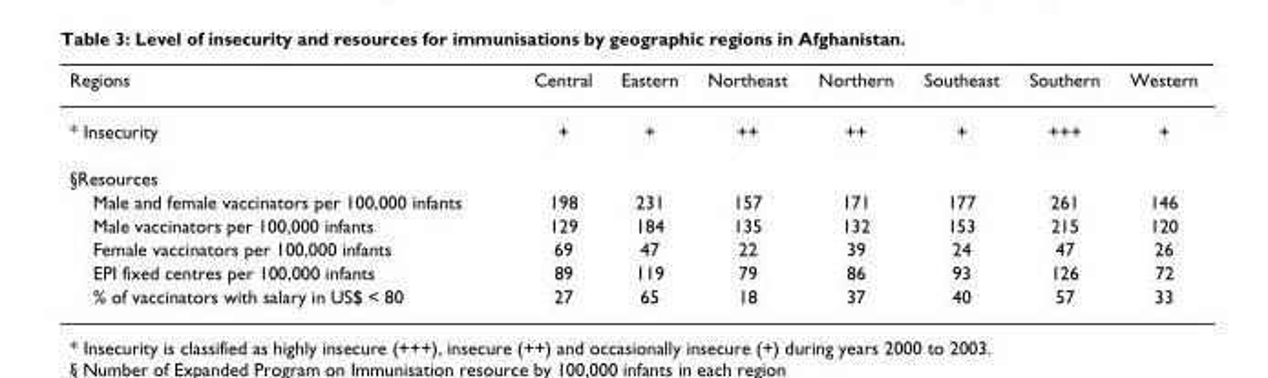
<table><thead><tr><td>Regions</td><td>Central</td><td>Eastern</td><td>Northeast</td><td>Northern</td><td>Southeast</td><td>Southern</td><td>Western</td></tr></thead><tbody><tr><td>* Insecurity</td><td>+</td><td>+</td><td>++</td><td>++</td><td>+</td><td>+++</td><td>+</td></tr><tr><td colspan="8">§Resources</td></tr><tr><td>Male and female vaccinators per 100,000 infants</td><td>198</td><td>231</td><td>157</td><td>171</td><td>177</td><td>261</td><td>146</td></tr><tr><td>Male vaccinators per 100,000 infants</td><td>129</td><td>184</td><td>135</td><td>132</td><td>153</td><td>215</td><td>120</td></tr><tr><td>Female vaccinators per 100,000 infants</td><td>69</td><td>47</td><td>22</td><td>39</td><td>24</td><td>47</td><td>26</td></tr><tr><td>EPI fixed centres per 100,000 infants</td><td>89</td><td>119</td><td>79</td><td>86</td><td>93</td><td>126</td><td>72</td></tr><tr><td>% of vaccinators with salary in US$ &lt; 80</td><td>27</td><td>65</td><td>18</td><td>37</td><td>40</td><td>57</td><td>33</td></tr></tbody></table>